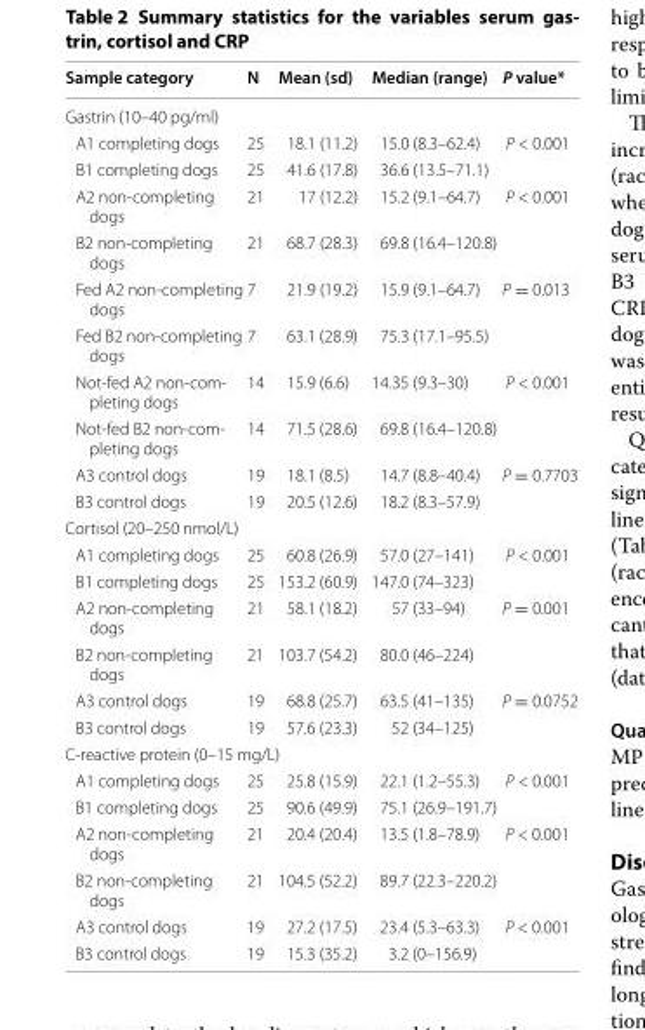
<table><thead><tr><td>Sample category</td><td>N</td><td>Mean (sd)</td><td>Median (range)</td><td>P value*</td></tr></thead><tbody><tr><td colspan="5">Gastrin (10–40 pg/ml)</td></tr><tr><td>A1 completing dogs</td><td>25</td><td>18.1 (11.2)</td><td>15.0 (8.3–62.4)</td><td rowspan="2">P &lt; 0.001</td></tr><tr><td>B1 completing dogs</td><td>25</td><td>41.6 (17.8)</td><td>36.6 (13.5–71.1)</td></tr><tr><td>A2 non-completing dogs</td><td>21</td><td>17 (12.2)</td><td>15.2 (9.1–64.7)</td><td rowspan="2">P &lt; 0.001</td></tr><tr><td>B2 non-completing dogs</td><td>21</td><td>68.7 (28.3)</td><td>69.8 (16.4–120.8)</td></tr><tr><td>Fed A2 non-completing dogs</td><td>7</td><td>21.9 (19.2)</td><td>15.9 (9.1–64.7)</td><td rowspan="2">P = 0.013</td></tr><tr><td>Fed B2 non-completing dogs</td><td>7</td><td>63.1 (28.9)</td><td>75.3 (17.1–95.5)</td></tr><tr><td>Not-fed A2 non-com- pleting dogs</td><td>14</td><td>15.9 (6.6)</td><td>14.35 (9.3–30)</td><td rowspan="2">P &lt; 0.001</td></tr><tr><td>Not-fed B2 non-com- pleting dogs</td><td>14</td><td>71.5 (28.6)</td><td>69.8 (16.4–120.8)</td></tr><tr><td>A3 control dogs</td><td>19</td><td>18.1 (8.5)</td><td>14.7 (8.8–40.4)</td><td rowspan="2">P = 0.7703</td></tr><tr><td>B3 control dogs</td><td>19</td><td>20.5 (12.6)</td><td>18.2 (8.3–57.9)</td></tr><tr><td colspan="5">Cortisol (20–250 nmol/L)</td></tr><tr><td>A1 completing dogs</td><td>25</td><td>60.8 (26.9)</td><td>57.0 (27–141)</td><td rowspan="2">P &lt; 0.001</td></tr><tr><td>B1 completing dogs</td><td>25</td><td>153.2 (60.9)</td><td>147.0 (74–323)</td></tr><tr><td>A2 non-completing dogs</td><td>21</td><td>58.1 (18.2)</td><td>57 (33–94)</td><td rowspan="2">P = 0.001</td></tr><tr><td>B2 non-completing dogs</td><td>21</td><td>103.7 (54.2)</td><td>80.0 (46–224)</td></tr><tr><td>A3 control dogs</td><td>19</td><td>68.8 (25.7)</td><td>63.5 (41–135)</td><td rowspan="2">P = 0.0752</td></tr><tr><td>B3 control dogs</td><td>19</td><td>57.6 (23.3)</td><td>52 (34–125)</td></tr><tr><td colspan="5">C-reactive protein (0–15 mg/L)</td></tr><tr><td>A1 completing dogs</td><td>25</td><td>25.8 (15.9)</td><td>22.1 (1.2–55.3)</td><td rowspan="2">P &lt; 0.001</td></tr><tr><td>B1 completing dogs</td><td>25</td><td>90.6 (49.9)</td><td>75.1 (26.9–191.7)</td></tr><tr><td>A2 non-completing dogs</td><td>21</td><td>20.4 (20.4)</td><td>13.5 (1.8–78.9)</td><td rowspan="2">P &lt; 0.001</td></tr><tr><td>B2 non-completing dogs</td><td>21</td><td>104.5 (52.2)</td><td>89.7 (22.3–220.2)</td></tr><tr><td>A3 control dogs</td><td>19</td><td>27.2 (17.5)</td><td>23.4 (5.3–63.3)</td><td rowspan="2">P &lt; 0.001</td></tr><tr><td>B3 control dogs</td><td>19</td><td>15.3 (35.2)</td><td>3.2 (0–156.9)</td></tr></tbody></table>